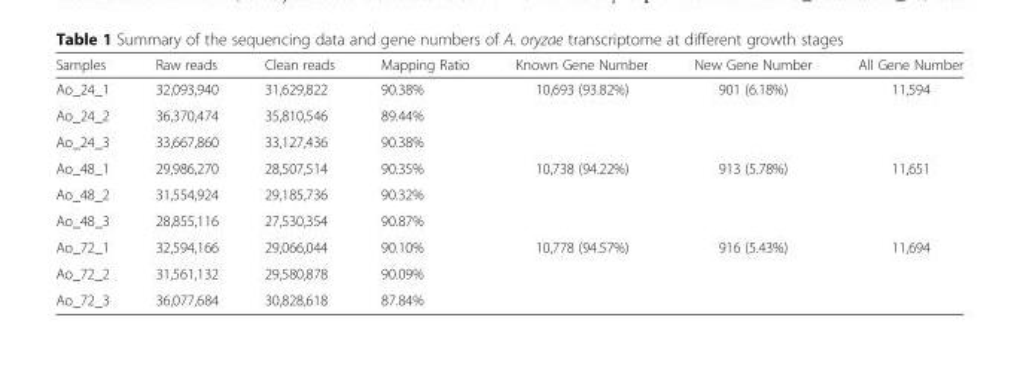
<table><thead><tr><td>Samples</td><td>Raw reads</td><td>Clean reads</td><td>Mapping Ratio</td><td>Known Gene Number</td><td>New Gene Number</td><td>All Gene Number</td></tr></thead><tbody><tr><td>Ao_24_1</td><td>32,093,940</td><td>31,629,822</td><td>90.38%</td><td rowspan="3">10,693 (93.82%)</td><td rowspan="3">901 (6.18%)</td><td rowspan="3">11,594</td></tr><tr><td>Ao_24_2</td><td>36,370,474</td><td>35,810,546</td><td>89.44%</td></tr><tr><td>Ao_24_3</td><td>33,667,860</td><td>33,127,436</td><td>90.38%</td></tr><tr><td>Ao_48_1</td><td>29,986,270</td><td>28,507,514</td><td>90.35%</td><td rowspan="3">10,738 (94.22%)</td><td rowspan="3">913 (5.78%)</td><td rowspan="3">11,651</td></tr><tr><td>Ao_48_2</td><td>31,554,924</td><td>29,185,736</td><td>90.32%</td></tr><tr><td>Ao_48_3</td><td>28,855,116</td><td>27,530,354</td><td>90.87%</td></tr><tr><td>Ao_72_1</td><td>32,594,166</td><td>29,066,044</td><td>90.10%</td><td rowspan="3">10,778 (94.57%)</td><td rowspan="3">916 (5.43%)</td><td rowspan="3">11,694</td></tr><tr><td>Ao_72_2</td><td>31,561,132</td><td>29,580,878</td><td>90.09%</td></tr><tr><td>Ao_72_3</td><td>36,077,684</td><td>30,828,618</td><td>87.84%</td></tr></tbody></table>